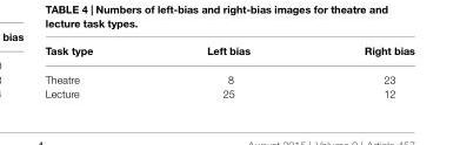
<table><thead><tr><td>Task type</td><td>Left bias</td><td>Right bias</td></tr></thead><tbody><tr><td>Theatre</td><td>8</td><td>23</td></tr><tr><td>Lecture</td><td>25</td><td>12</td></tr></tbody></table>